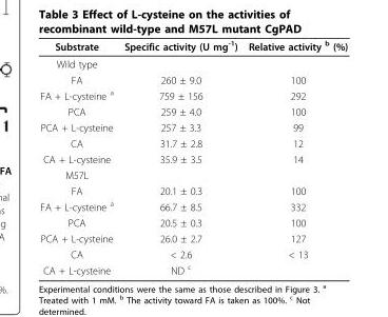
<table><thead><tr><td>Substrate</td><td>Specific activity (U mg<sup>-1</sup>)</td><td>Relative activity <sup>b</sup> (%)</td></tr></thead><tbody><tr><td colspan="3">Wild type</td></tr><tr><td>FA</td><td>260 ± 9.0</td><td>100</td></tr><tr><td>FA + L-cysteine <sup>a</sup></td><td>759 ± 156</td><td>292</td></tr><tr><td>PCA</td><td>259 ± 4.0</td><td>100</td></tr><tr><td>PCA + L-cysteine</td><td>257 ± 3.3</td><td>99</td></tr><tr><td>CA</td><td>31.7 ± 2.8</td><td>12</td></tr><tr><td>CA + L-cysteine</td><td>35.9 ± 3.5</td><td>14</td></tr><tr><td colspan="3">M57L</td></tr><tr><td>FA</td><td>20.1 ± 0.3</td><td>100</td></tr><tr><td>FA + L-cysteine <sup>a</sup></td><td>66.7 ± 8.5</td><td>332</td></tr><tr><td>PCA</td><td>20.5 ± 0.3</td><td>100</td></tr><tr><td>PCA + L-cysteine</td><td>26.0 ± 2.7</td><td>127</td></tr><tr><td>CA</td><td>&lt; 2.6</td><td>&lt; 13</td></tr><tr><td>CA + L-cysteine</td><td>ND <sup>c</sup></td><td></td></tr></tbody></table>